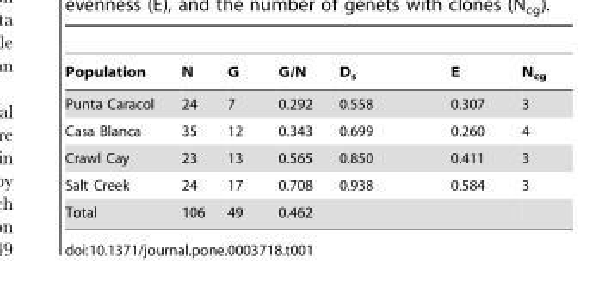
<table><thead><tr><td>Population</td><td>N</td><td>G</td><td>G/N</td><td>D<sub>s</sub></td><td>E</td><td>N<sub>cg</sub></td></tr></thead><tbody><tr><td>Punta Caracol</td><td>24</td><td>7</td><td>0.292</td><td>0.558</td><td>0.307</td><td>3</td></tr><tr><td>Casa Blanca</td><td>35</td><td>12</td><td>0.343</td><td>0.699</td><td>0.260</td><td>4</td></tr><tr><td>Crawl Cay</td><td>23</td><td>13</td><td>0.565</td><td>0.850</td><td>0.411</td><td>3</td></tr><tr><td>Salt Creek</td><td>24</td><td>17</td><td>0.708</td><td>0.938</td><td>0.584</td><td>3</td></tr><tr><td>Total</td><td>106</td><td>49</td><td>0.462</td><td></td><td></td><td></td></tr></tbody></table>